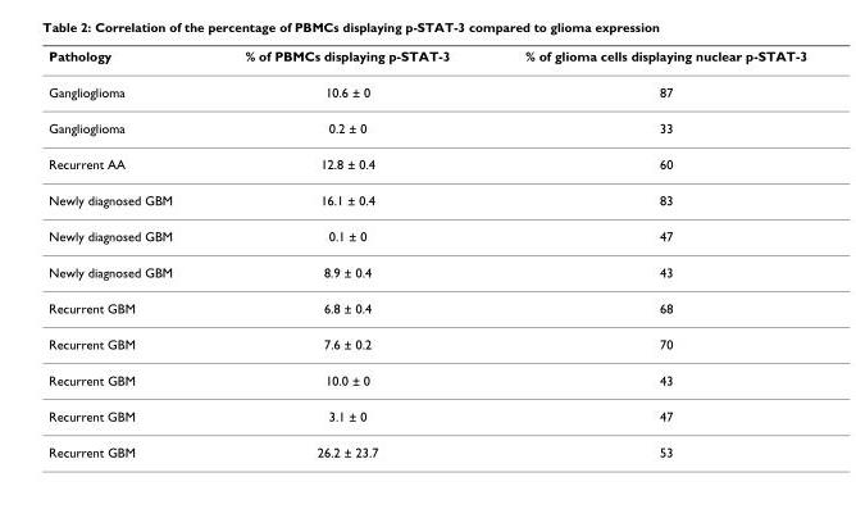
<table><thead><tr><td>Pathology</td><td>% of PBMCs displaying p-STAT-3</td><td>% of glioma cells displaying nuclear p-STAT-3</td></tr></thead><tbody><tr><td>Ganglioglioma</td><td>10.6 ± 0</td><td>87</td></tr><tr><td>Ganglioglioma</td><td>0.2 ± 0</td><td>33</td></tr><tr><td>Recurrent AA</td><td>12.8 ± 0.4</td><td>60</td></tr><tr><td>Newly diagnosed GBM</td><td>16.1 ± 0.4</td><td>83</td></tr><tr><td>Newly diagnosed GBM</td><td>0.1 ± 0</td><td>47</td></tr><tr><td>Newly diagnosed GBM</td><td>8.9 ± 0.4</td><td>43</td></tr><tr><td>Recurrent GBM</td><td>6.8 ± 0.4</td><td>68</td></tr><tr><td>Recurrent GBM</td><td>7.6 ± 0.2</td><td>70</td></tr><tr><td>Recurrent GBM</td><td>10.0 ± 0</td><td>43</td></tr><tr><td>Recurrent GBM</td><td>3.1 ± 0</td><td>47</td></tr><tr><td>Recurrent GBM</td><td>26.2 ± 23.7</td><td>53</td></tr></tbody></table>